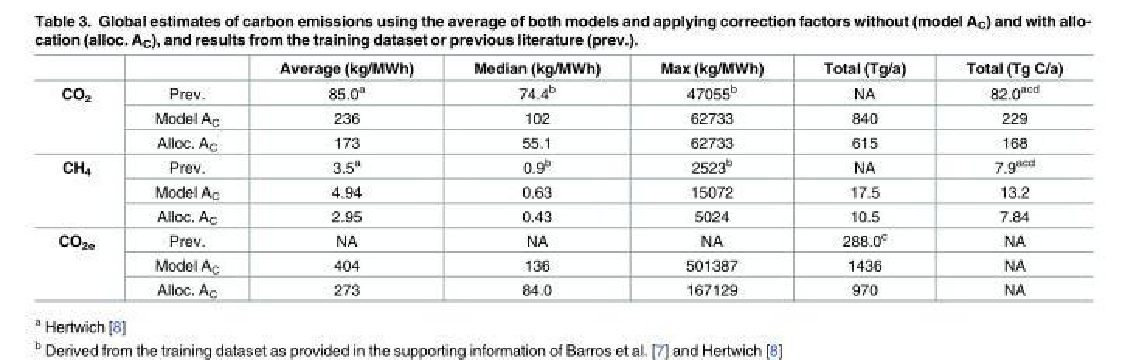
<table><thead><tr><td></td><td></td><td>Average (kg/MWh)</td><td>Median (kg/MWh)</td><td>Max (kg/MWh)</td><td>Total (Tg/a)</td><td>Total (Tg C/a)</td></tr></thead><tbody><tr><td rowspan="3">CO<sub>2</sub></td><td>Prev.</td><td>85.0<sup>a</sup></td><td>74.4<sup>b</sup></td><td>47055<sup>b</sup></td><td>NA</td><td>82.0<sup>acd</sup></td></tr><tr><td>Model A<sub>C</sub></td><td>236</td><td>102</td><td>62733</td><td>840</td><td>229</td></tr><tr><td>Alloc. A<sub>C</sub></td><td>173</td><td>55.1</td><td>62733</td><td>615</td><td>168</td></tr><tr><td rowspan="3">CH<sub>4</sub></td><td>Prev.</td><td>3.5<sup>a</sup></td><td>0.9<sup>b</sup></td><td>2523<sup>b</sup></td><td>NA</td><td>7.9<sup>acd</sup></td></tr><tr><td>Model A<sub>C</sub></td><td>4.94</td><td>0.63</td><td>15072</td><td>17.5</td><td>13.2</td></tr><tr><td>Alloc. A<sub>C</sub></td><td>2.95</td><td>0.43</td><td>5024</td><td>10.5</td><td>7.84</td></tr><tr><td rowspan="3">CO<sub>2e</sub></td><td>Prev.</td><td>NA</td><td>NA</td><td>NA</td><td>288.0<sup>c</sup></td><td>NA</td></tr><tr><td>Model A<sub>C</sub></td><td>404</td><td>136</td><td>501387</td><td>1436</td><td>NA</td></tr><tr><td>Alloc. A<sub>C</sub></td><td>273</td><td>84.0</td><td>167129</td><td>970</td><td>NA</td></tr></tbody></table>